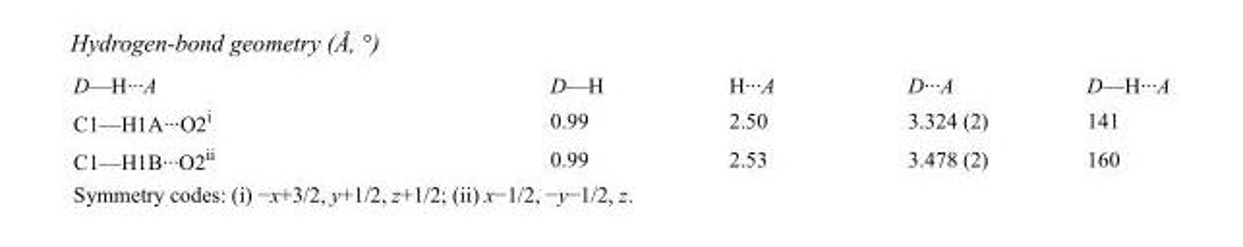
<table><tbody><tr><td>D—H···A</td><td>D—H</td><td>H···A</td><td>D···A</td><td>D—H···A</td></tr><tr><td>C1—H1A···O2<sup>i</sup></td><td>0.99</td><td>2.50</td><td>3.324 (2)</td><td>141</td></tr><tr><td>C1—H1B···O2<sup>ii</sup></td><td>0.99</td><td>2.53</td><td>3.478 (2)</td><td>160</td></tr></tbody></table>